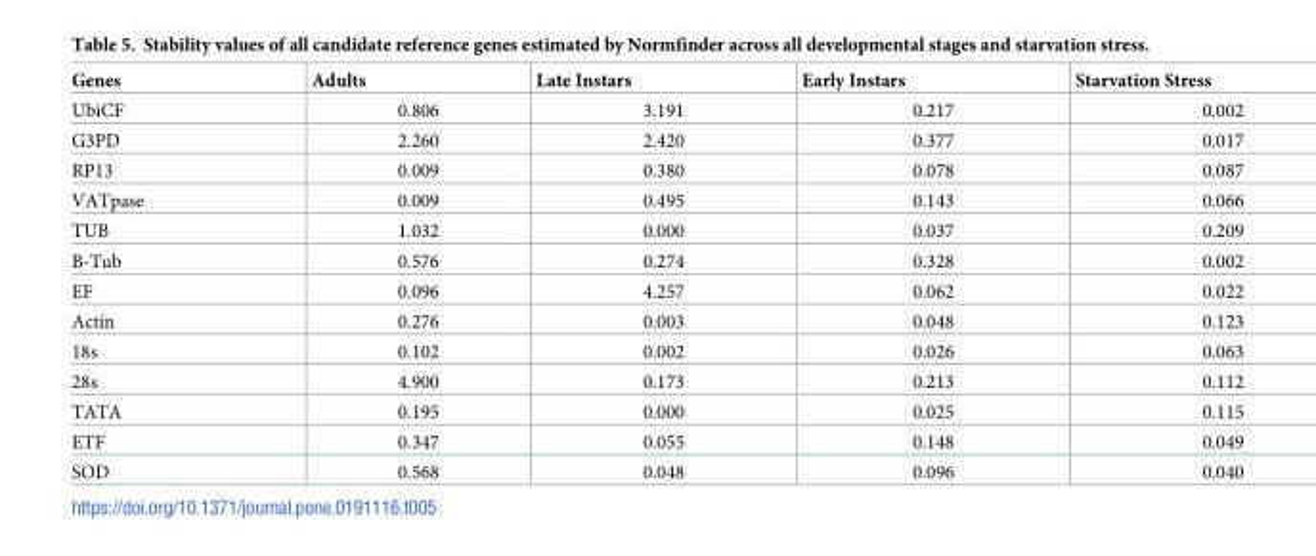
<table><thead><tr><td>Genes</td><td>Adults</td><td>Late Instars</td><td>Early Instars</td><td>Starvation Stress</td></tr></thead><tbody><tr><td>UbiCF</td><td>0.806</td><td>3.191</td><td>0.217</td><td>0.002</td></tr><tr><td>G3PD</td><td>2.260</td><td>2.420</td><td>0.377</td><td>0.017</td></tr><tr><td>RP13</td><td>0.009</td><td>0.380</td><td>0.078</td><td>0.087</td></tr><tr><td>VATpase</td><td>0.009</td><td>0.495</td><td>0.143</td><td>0.066</td></tr><tr><td>TUB</td><td>1.032</td><td>0.000</td><td>0.037</td><td>0.209</td></tr><tr><td>B-Tub</td><td>0.576</td><td>0.274</td><td>0.328</td><td>0.002</td></tr><tr><td>EF</td><td>0.096</td><td>4.257</td><td>0.062</td><td>0.022</td></tr><tr><td>Actin</td><td>0.276</td><td>0.003</td><td>0.048</td><td>0.123</td></tr><tr><td>18s</td><td>0.102</td><td>0.002</td><td>0.026</td><td>0.063</td></tr><tr><td>28s</td><td>4.900</td><td>0.173</td><td>0.213</td><td>0.112</td></tr><tr><td>TATA</td><td>0.195</td><td>0.000</td><td>0.025</td><td>0.115</td></tr><tr><td>ETF</td><td>0.347</td><td>0.055</td><td>0.148</td><td>0.049</td></tr><tr><td>SOD</td><td>0.568</td><td>0.048</td><td>0.096</td><td>0.040</td></tr></tbody></table>